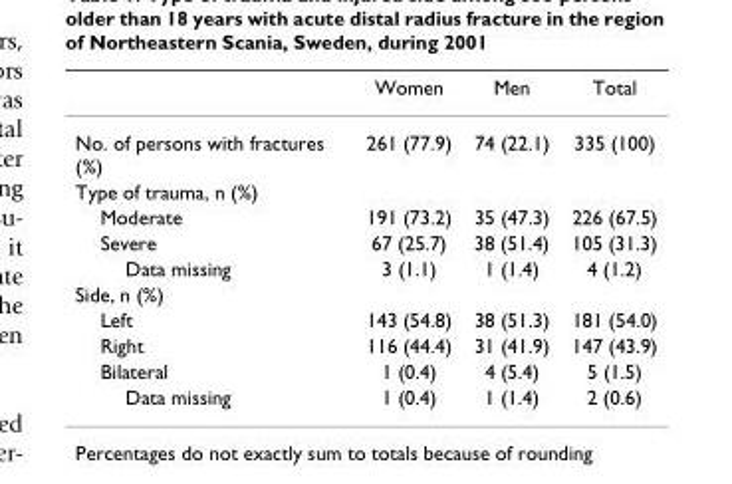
<table><thead><tr><td></td><td>Women</td><td>Men</td><td>Total</td></tr></thead><tbody><tr><td>No. of persons with fractures (%)</td><td>261 (77.9)</td><td>74 (22.1)</td><td>335 (100)</td></tr><tr><td colspan="4">Type of trauma, n (%)</td></tr><tr><td>Moderate</td><td>191 (73.2)</td><td>35 (47.3)</td><td>226 (67.5)</td></tr><tr><td>Severe</td><td>67 (25.7)</td><td>38 (51.4)</td><td>105 (31.3)</td></tr><tr><td>Data missing</td><td>3 (1.1)</td><td>1 (1.4)</td><td>4 (1.2)</td></tr><tr><td colspan="4">Side, n (%)</td></tr><tr><td>Left</td><td>143 (54.8)</td><td>38 (51.3)</td><td>181 (54.0)</td></tr><tr><td>Right</td><td>116 (44.4)</td><td>31 (41.9)</td><td>147 (43.9)</td></tr><tr><td>Bilateral</td><td>1 (0.4)</td><td>4 (5.4)</td><td>5 (1.5)</td></tr><tr><td>Data missing</td><td>1 (0.4)</td><td>1 (1.4)</td><td>2 (0.6)</td></tr></tbody></table>